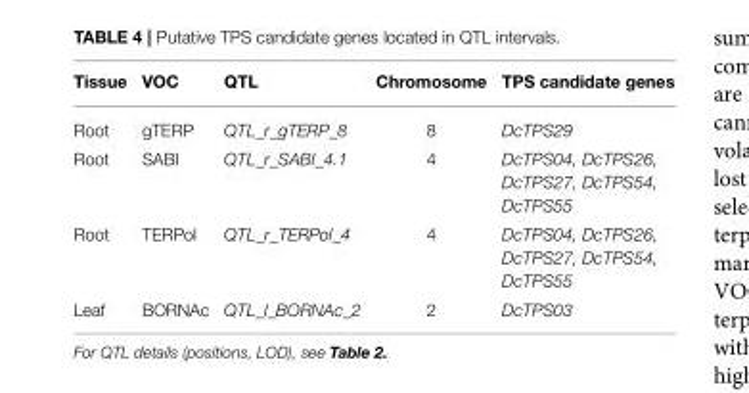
<table><thead><tr><td>Tissue</td><td>VOC</td><td>QTL</td><td>Chromosome</td><td>TPS candidate genes</td></tr></thead><tbody><tr><td>Root</td><td>gTERP</td><td>QTL_r_gTERP_8</td><td>8</td><td>DcTPS29</td></tr><tr><td>Root</td><td>SABI</td><td>QTL_r_SABI_4.1</td><td>4</td><td>DcTPS04, DcTPS26, DcTPS27, DcTPS54, DcTPS55</td></tr><tr><td>Root</td><td>TERPol</td><td>QTL_r_TERPol_4</td><td>4</td><td>DcTPS04, DcTPS26, DcTPS27, DcTPS54, DcTPS55</td></tr><tr><td>Leaf</td><td>BORNAc</td><td>QTL_l_BORNAc_2</td><td>2</td><td>DcTPS03</td></tr></tbody></table>